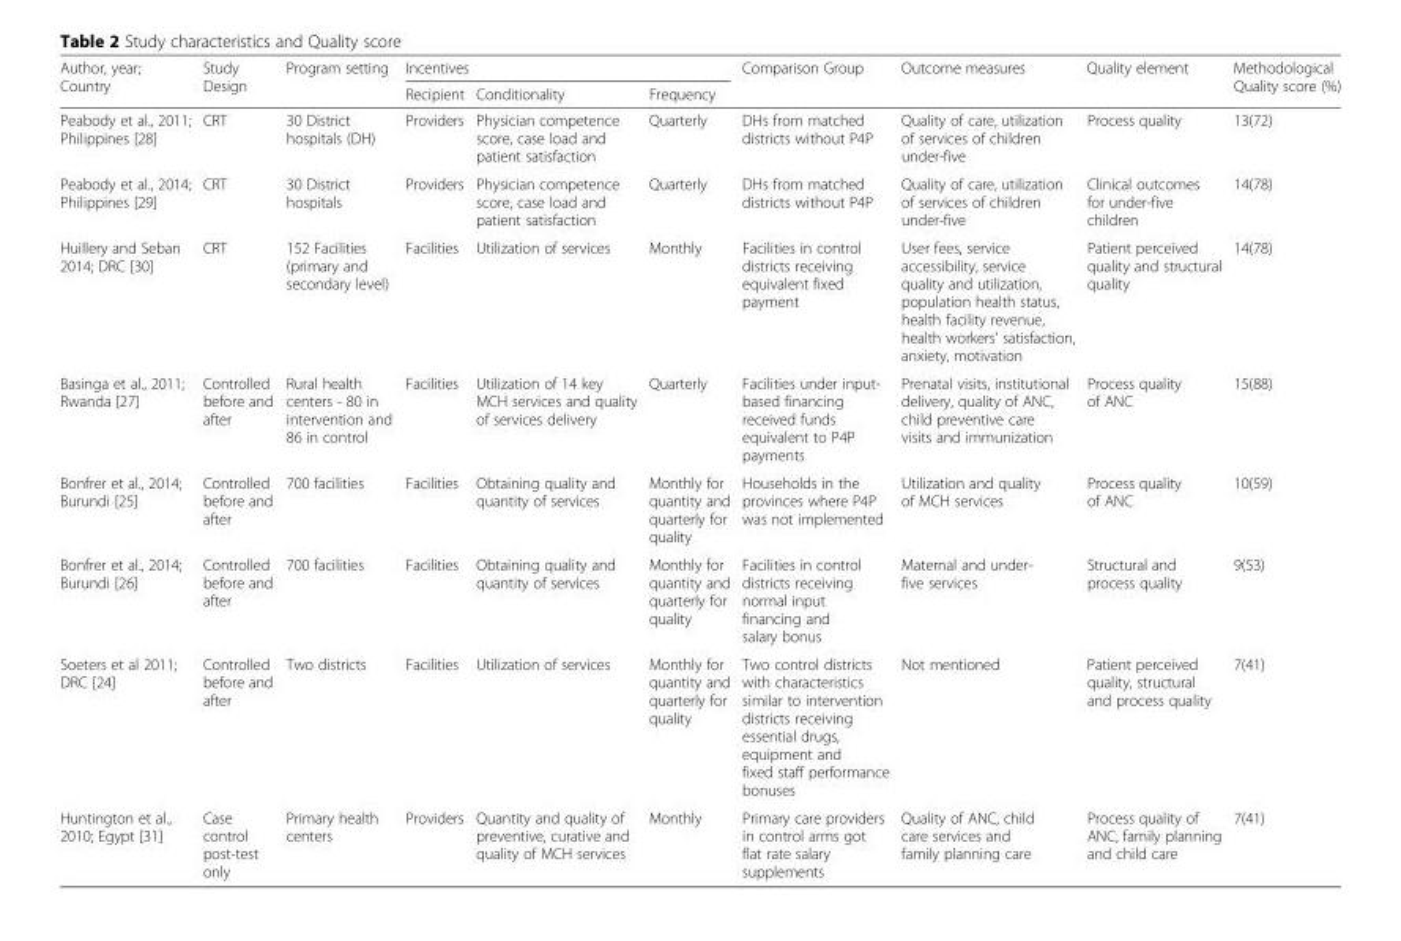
<table><thead><tr><td rowspan="2">Author, year; Country</td><td rowspan="2">Study Design</td><td rowspan="2">Program setting</td><td colspan="3">Incentives</td><td rowspan="2">Comparison Group</td><td rowspan="2">Outcome measures</td><td rowspan="2">Quality element</td><td rowspan="2">Methodological Quality score (%)</td></tr><tr><td>Recipient</td><td>Conditionality</td><td>Frequency</td></tr></thead><tbody><tr><td>Peabody et al., 2011; Philippines [28]</td><td>CRT</td><td>30 District hospitals (DH)</td><td>Providers</td><td>Physician competence score, case load and patient satisfaction</td><td>Quarterly</td><td>DHs from matched districts without P4P</td><td>Quality of care, utilization of services of children under-five</td><td>Process quality</td><td>13(72)</td></tr><tr><td>Peabody et al., 2014; Philippines [29]</td><td>CRT</td><td>30 District hospitals</td><td>Providers</td><td>Physician competence score, case load and patient satisfaction</td><td>Quarterly</td><td>DHs from matched districts without P4P</td><td>Quality of care, utilization of services of children under-five</td><td>Clinical outcomes for under-five children</td><td>14(78)</td></tr><tr><td>Huillery and Seban 2014; DRC [30]</td><td>CRT</td><td>152 Facilities (primary and secondary level)</td><td>Facilities</td><td>Utilization of services</td><td>Monthly</td><td>Facilities in control districts receiving equivalent fixed payment</td><td>User fees, service accessibility, service quality and utilization, population health status, health facility revenue, health workers’ satisfaction, anxiety, motivation</td><td>Patient perceived quality and structural quality</td><td>14(78)</td></tr><tr><td>Basinga et al., 2011; Rwanda [27]</td><td>Controlled before and after</td><td>Rural health centers - 80 in intervention and 86 in control</td><td>Facilities</td><td>Utilization of 14 key MCH services and quality of services delivery</td><td>Quarterly</td><td>Facilities under input- based financing received funds equivalent to P4P payments</td><td>Prenatal visits, institutional delivery, quality of ANC, child preventive care visits and immunization</td><td>Process quality of ANC</td><td>15(88)</td></tr><tr><td>Bonfrer et al., 2014; Burundi [25]</td><td>Controlled before and after</td><td>700 facilities</td><td>Facilities</td><td>Obtaining quality and quantity of services</td><td>Monthly for quantity and quarterly for quality</td><td>Households in the provinces where P4P was not implemented</td><td>Utilization and quality of MCH services</td><td>Process quality of ANC</td><td>10(59)</td></tr><tr><td>Bonfrer et al., 2014; Burundi [26]</td><td>Controlled before and after</td><td>700 facilities</td><td>Facilities</td><td>Obtaining quality and quantity of services</td><td>Monthly for quantity and quarterly for quality</td><td>Facilities in control districts receiving normal input financing and salary bonus</td><td>Maternal and under- five services</td><td>Structural and process quality</td><td>9(53)</td></tr><tr><td>Soeters et al 2011; DRC [24]</td><td>Controlled before and after</td><td>Two districts</td><td>Facilities</td><td>Utilization of services</td><td>Monthly for quantity and quarterly for quality</td><td>Two control districts with characteristics similar to intervention districts receiving essential drugs, equipment and fixed staff performance bonuses</td><td>Not mentioned</td><td>Patient perceived quality, structural and process quality</td><td>7(41)</td></tr><tr><td>Huntington et al., 2010; Egypt [31]</td><td>Case control post-test only</td><td>Primary health centers</td><td>Providers</td><td>Quantity and quality of preventive, curative and quality of MCH services</td><td>Monthly</td><td>Primary care providers in control arms got flat rate salary supplements</td><td>Quality of ANC, child care services and family planning care</td><td>Process quality of ANC, family planning and child care</td><td>7(41)</td></tr></tbody></table>